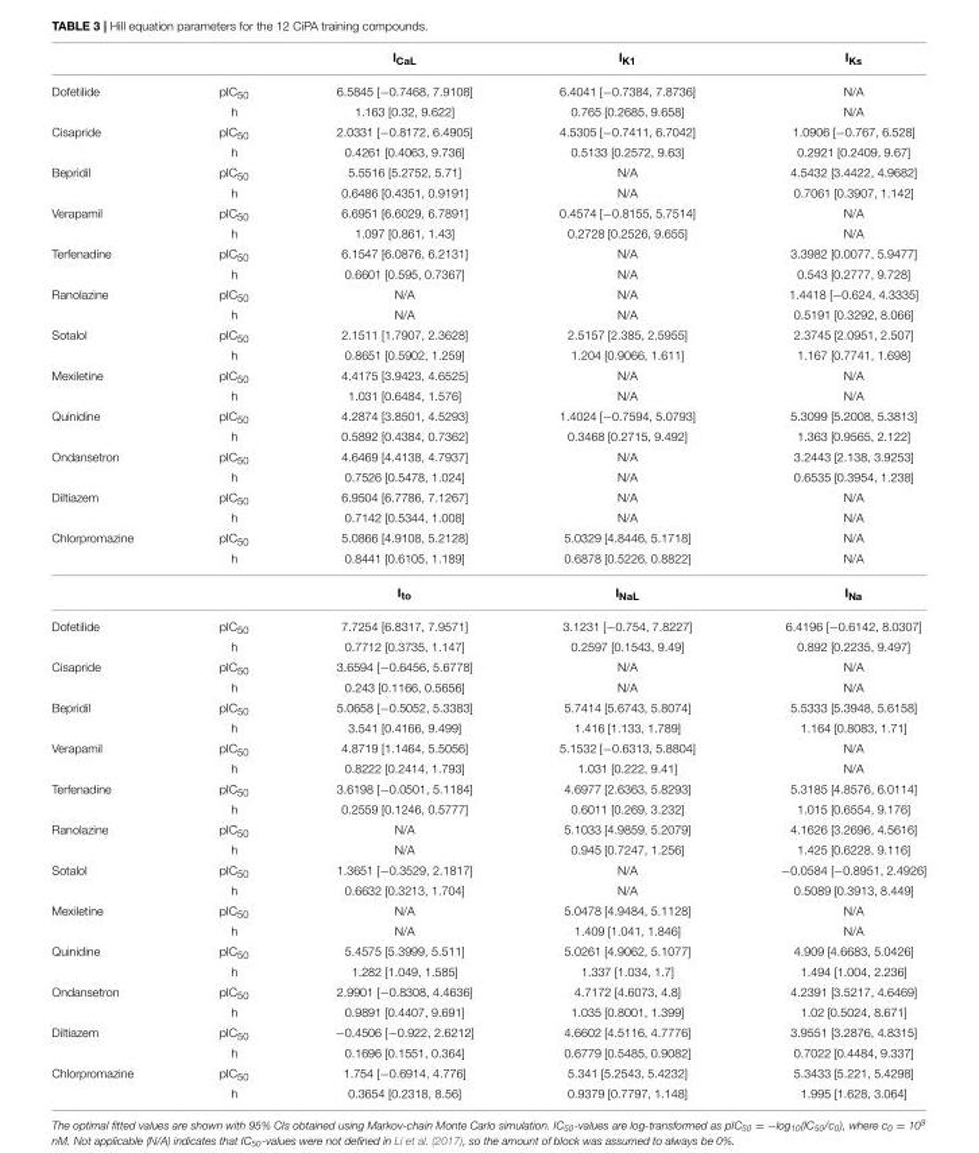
<table><thead><tr><td></td><td></td><td>I<sub>CaL</sub></td><td>I<sub>K1</sub></td><td>I<sub>Ks</sub></td></tr></thead><tbody><tr><td rowspan="2">Dofetilide</td><td>pIC<sub>50</sub></td><td>6.5845 [−0.7468, 7.9108]</td><td>6.4041 [−0.7384, 7.8736]</td><td>N/A</td></tr><tr><td>h</td><td>1.163 [0.32, 9.622]</td><td>0.765 [0.2685, 9.658]</td><td>N/A</td></tr><tr><td rowspan="2">Cisapride</td><td>pIC<sub>50</sub></td><td>2.0331 [−0.8172, 6.4905]</td><td>4.5305 [−0.7411, 6.7042]</td><td>1.0906 [−0.767, 6.528]</td></tr><tr><td>h</td><td>0.4261 [0.4063, 9.736]</td><td>0.5133 [0.2572, 9.63]</td><td>0.2921 [0.2409, 9.67]</td></tr><tr><td rowspan="2">Bepridil</td><td>pIC<sub>50</sub></td><td>5.5516 [5.2752, 5.71]</td><td>N/A</td><td>4.5432 [3.4422, 4.9682]</td></tr><tr><td>h</td><td>0.6486 [0.4351, 0.9191]</td><td>N/A</td><td>0.7061 [0.3907, 1.142]</td></tr><tr><td rowspan="2">Verapamil</td><td>pIC<sub>50</sub></td><td>6.6951 [6.6029, 6.7891]</td><td>0.4574 [−0.8155, 5.7514]</td><td>N/A</td></tr><tr><td>h</td><td>1.097 [0.861, 1.43]</td><td>0.2728 [0.2526, 9.655]</td><td>N/A</td></tr><tr><td rowspan="2">Terfenadine</td><td>pIC<sub>50</sub></td><td>6.1547 [6.0876, 6.2131]</td><td>N/A</td><td>3.3982 [0.0077, 5.9477]</td></tr><tr><td>h</td><td>0.6601 [0.595, 0.7367]</td><td>N/A</td><td>0.543 [0.2777, 9.728]</td></tr><tr><td rowspan="2">Ranolazine</td><td>pIC<sub>50</sub></td><td>N/A</td><td>N/A</td><td>1.4418 [−0.624, 4.3335]</td></tr><tr><td>h</td><td>N/A</td><td>N/A</td><td>0.5191 [0.3292, 8.066]</td></tr><tr><td rowspan="2">Sotalol</td><td>pIC<sub>50</sub></td><td>2.1511 [1.7907, 2.3628]</td><td>2.5157 [2.385, 2.5955]</td><td>2.3745 [2.0951, 2.507]</td></tr><tr><td>h</td><td>0.8651 [0.5902, 1.259]</td><td>1.204 [0.9066, 1.611]</td><td>1.167 [0.7741, 1.698]</td></tr><tr><td rowspan="2">Mexiletine</td><td>pIC<sub>50</sub></td><td>4.4175 [3.9423, 4.6525]</td><td>N/A</td><td>N/A</td></tr><tr><td>h</td><td>1.031 [0.6484, 1.576]</td><td>N/A</td><td>N/A</td></tr><tr><td rowspan="2">Quinidine</td><td>pIC<sub>50</sub></td><td>4.2874 [3.8501, 4.5293]</td><td>1.4024 [−0.7594, 5.0793]</td><td>5.3099 [5.2008, 5.3813]</td></tr><tr><td>h</td><td>0.5892 [0.4384, 0.7362]</td><td>0.3468 [0.2715, 9.492]</td><td>1.363 [0.9565, 2.122]</td></tr><tr><td rowspan="2">Ondansetron</td><td>pIC<sub>50</sub></td><td>4.6469 [4.4138, 4.7937]</td><td>N/A</td><td>3.2443 [2.138, 3.9253]</td></tr><tr><td>h</td><td>0.7526 [0.5478, 1.024]</td><td>N/A</td><td>0.6535 [0.3954, 1.238]</td></tr><tr><td rowspan="2">Diltiazem</td><td>pIC<sub>50</sub></td><td>6.9504 [6.7786, 7.1267]</td><td>N/A</td><td>N/A</td></tr><tr><td>h</td><td>0.7142 [0.5344, 1.008]</td><td>N/A</td><td>N/A</td></tr><tr><td rowspan="3">Chlorpromazine</td><td>pIC<sub>50</sub></td><td>5.0866 [4.9108, 5.2128]</td><td>5.0329 [4.8446, 5.1718]</td><td>N/A</td></tr><tr><td>h</td><td>0.8441 [0.6105, 1.189]</td><td>0.6878 [0.5226, 0.8822]</td><td>N/A</td></tr><tr><td></td><td>I<sub>to</sub></td><td>I<sub>NaL</sub></td><td>I<sub>Na</sub></td></tr><tr><td rowspan="2">Dofetilide</td><td>pIC<sub>50</sub></td><td>7.7254 [6.8317, 7.9571]</td><td>3.1231 [−0.754, 7.8227]</td><td>6.4196 [−0.6142, 8.0307]</td></tr><tr><td>h</td><td>0.7712 [0.3735, 1.147]</td><td>0.2597 [0.1543, 9.49]</td><td>0.892 [0.2235, 9.497]</td></tr><tr><td rowspan="2">Cisapride</td><td>pIC<sub>50</sub></td><td>3.6594 [−0.6456, 5.6778]</td><td>N/A</td><td>N/A</td></tr><tr><td>h</td><td>0.243 [0.1166, 0.5656]</td><td>N/A</td><td>N/A</td></tr><tr><td rowspan="2">Bepridil</td><td>pIC<sub>50</sub></td><td>5.0658 [−0.5052, 5.3383]</td><td>5.7414 [5.6743, 5.8074]</td><td>5.5333 [5.3948, 5.6158]</td></tr><tr><td>h</td><td>3.541 [0.4166, 9.499]</td><td>1.416 [1.133, 1.789]</td><td>1.164 [0.8083, 1.71]</td></tr><tr><td rowspan="2">Verapamil</td><td>pIC<sub>50</sub></td><td>4.8719 [1.1464, 5.5056]</td><td>5.1532 [−0.6313, 5.8804]</td><td>N/A</td></tr><tr><td>h</td><td>0.8222 [0.2414, 1.793]</td><td>1.031 [0.222, 9.41]</td><td>N/A</td></tr><tr><td rowspan="2">Terfenadine</td><td>pIC<sub>50</sub></td><td>3.6198 [−0.0501, 5.1184]</td><td>4.6977 [2.6363, 5.8293]</td><td>5.3185 [4.8576, 6.0114]</td></tr><tr><td>h</td><td>0.2559 [0.1246, 0.5777]</td><td>0.6011 [0.269, 3.232]</td><td>1.015 [0.6554, 9.176]</td></tr><tr><td rowspan="2">Ranolazine</td><td>pIC<sub>50</sub></td><td>N/A</td><td>5.1033 [4.9859, 5.2079]</td><td>4.1626 [3.2696, 4.5616]</td></tr><tr><td>h</td><td>N/A</td><td>0.945 [0.7247, 1.256]</td><td>1.425 [0.6228, 9.116]</td></tr><tr><td rowspan="2">Sotalol</td><td>pIC<sub>50</sub></td><td>1.3651 [−0.3529, 2.1817]</td><td>N/A</td><td>−0.0584 [−0.8951, 2.4926]</td></tr><tr><td>h</td><td>0.6632 [0.3213, 1.704]</td><td>N/A</td><td>0.5089 [0.3913, 8.449]</td></tr><tr><td rowspan="2">Mexiletine</td><td>pIC<sub>50</sub></td><td>N/A</td><td>5.0478 [4.9484, 5.1128]</td><td>N/A</td></tr><tr><td>h</td><td>N/A</td><td>1.409 [1.041, 1.846]</td><td>N/A</td></tr><tr><td rowspan="2">Quinidine</td><td>pIC<sub>50</sub></td><td>5.4575 [5.3999, 5.511]</td><td>5.0261 [4.9062, 5.1077]</td><td>4.909 [4.6683, 5.0426]</td></tr><tr><td>h</td><td>1.282 [1.049, 1.585]</td><td>1.337 [1.034, 1.7]</td><td>1.494 [1.004, 2.236]</td></tr><tr><td rowspan="2">Ondansetron</td><td>pIC<sub>50</sub></td><td>2.9901 [−0.8308, 4.4636]</td><td>4.7172 [4.6073, 4.8]</td><td>4.2391 [3.5217, 4.6469]</td></tr><tr><td>h</td><td>0.9891 [0.4407, 9.691]</td><td>1.035 [0.8001, 1.399]</td><td>1.02 [0.5024, 8.671]</td></tr><tr><td rowspan="2">Diltiazem</td><td>pIC<sub>50</sub></td><td>−0.4506 [−0.922, 2.6212]</td><td>4.6602 [4.5116, 4.7776]</td><td>3.9551 [3.2876, 4.8315]</td></tr><tr><td>h</td><td>0.1696 [0.1551, 0.364]</td><td>0.6779 [0.5485, 0.9082]</td><td>0.7022 [0.4484, 9.337]</td></tr><tr><td rowspan="2">Chlorpromazine</td><td>pIC<sub>50</sub></td><td>1.754 [−0.6914, 4.776]</td><td>5.341 [5.2543, 5.4232]</td><td>5.3433 [5.221, 5.4298]</td></tr><tr><td>h</td><td>0.3654 [0.2318, 8.56]</td><td>0.9379 [0.7797, 1.148]</td><td>1.995 [1.628, 3.064]</td></tr></tbody></table>